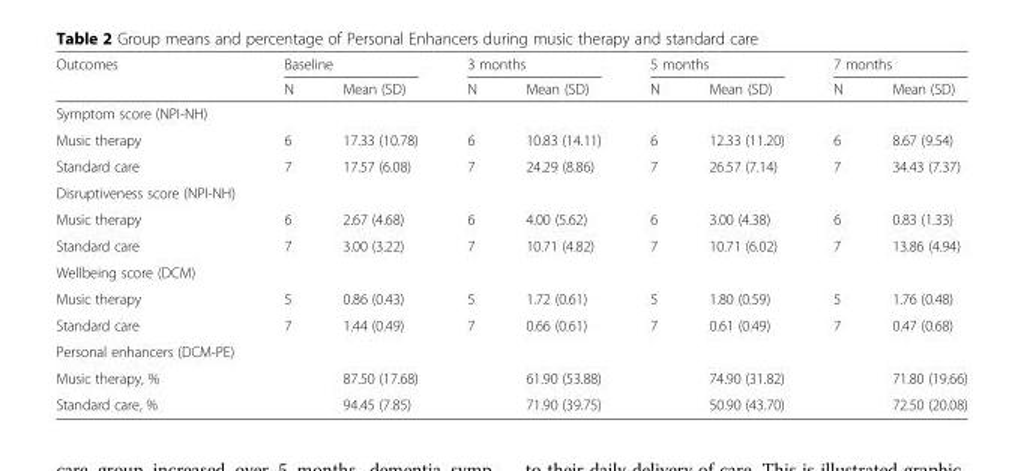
<table><thead><tr><td rowspan="2">Outcomes</td><td colspan="2">Baseline</td><td colspan="2">3 months</td><td colspan="2">5 months</td><td colspan="2">7 months</td></tr><tr><td>N</td><td>Mean (SD)</td><td>N</td><td>Mean (SD)</td><td>N</td><td>Mean (SD)</td><td>N</td><td>Mean (SD)</td></tr></thead><tbody><tr><td colspan="9">Symptom score (NPI-NH)</td></tr><tr><td>Music therapy</td><td>6</td><td>17.33 (10.78)</td><td>6</td><td>10.83 (14.11)</td><td>6</td><td>12.33 (11.20)</td><td>6</td><td>8.67 (9.54)</td></tr><tr><td>Standard care</td><td>7</td><td>17.57 (6.08)</td><td>7</td><td>24.29 (8.86)</td><td>7</td><td>26.57 (7.14)</td><td>7</td><td>34.43 (7.37)</td></tr><tr><td colspan="9">Disruptiveness score (NPI-NH)</td></tr><tr><td>Music therapy</td><td>6</td><td>2.67 (4.68)</td><td>6</td><td>4.00 (5.62)</td><td>6</td><td>3.00 (4.38)</td><td>6</td><td>0.83 (1.33)</td></tr><tr><td>Standard care</td><td>7</td><td>3.00 (3.22)</td><td>7</td><td>10.71 (4.82)</td><td>7</td><td>10.71 (6.02)</td><td>7</td><td>13.86 (4.94)</td></tr><tr><td colspan="9">Wellbeing score (DCM)</td></tr><tr><td>Music therapy</td><td>5</td><td>0.86 (0.43)</td><td>5</td><td>1.72 (0.61)</td><td>5</td><td>1.80 (0.59)</td><td>5</td><td>1.76 (0.48)</td></tr><tr><td>Standard care</td><td>7</td><td>1.44 (0.49)</td><td>7</td><td>0.66 (0.61)</td><td>7</td><td>0.61 (0.49)</td><td>7</td><td>0.47 (0.68)</td></tr><tr><td colspan="9">Personal enhancers (DCM-PE)</td></tr><tr><td>Music therapy, %</td><td></td><td>87.50 (17.68)</td><td></td><td>61.90 (53.88)</td><td></td><td>74.90 (31.82)</td><td></td><td>71.80 (19.66)</td></tr><tr><td>Standard care, %</td><td></td><td>94.45 (7.85)</td><td></td><td>71.90 (39.75)</td><td></td><td>50.90 (43.70)</td><td></td><td>72.50 (20.08)</td></tr></tbody></table>